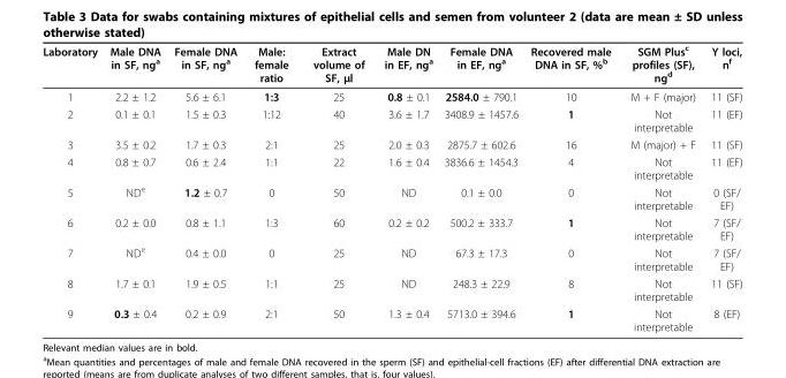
<table><thead><tr><td>Laboratory</td><td>Male DNA in SF, ng<sup>a</sup></td><td>Female DNA in SF, ng<sup>a</sup></td><td>Male: female ratio</td><td>Extract volume of SF, μl</td><td>Male DN in EF, ng<sup>a</sup></td><td>Female DNA in EF, ng<sup>a</sup></td><td>Recovered male DNA in SF, %<sup>b</sup></td><td>SGM Plus<sup>c</sup> profiles (SF), ng<sup>d</sup></td><td>Y loci, n<sup>f</sup></td></tr></thead><tbody><tr><td>1</td><td>2.2 ± 1.2</td><td>5.6 ± 6.1</td><td>1:3</td><td>25</td><td>0.8 ± 0.1</td><td>2584.0 ± 790.1</td><td>10</td><td>M + F (major)</td><td>11 (SF)</td></tr><tr><td>2</td><td>0.1 ± 0.1</td><td>1.5 ± 0.3</td><td>1:12</td><td>40</td><td>3.6 ± 1.7</td><td>3408.9 ± 1457.6</td><td>1</td><td>Not interpretable</td><td>11 (EF)</td></tr><tr><td>3</td><td>3.5 ± 0.2</td><td>1.7 ± 0.3</td><td>2:1</td><td>25</td><td>2.0 ± 0.3</td><td>2875.7 ± 602.6</td><td>16</td><td>M (major) + F</td><td>11 (SF)</td></tr><tr><td>4</td><td>0.8 ± 0.7</td><td>0.6 ± 2.4</td><td>1:1</td><td>22</td><td>1.6 ± 0.4</td><td>3836.6 ± 1454.3</td><td>4</td><td>Not interpretable</td><td>11 (EF)</td></tr><tr><td>5</td><td>ND<sup>e</sup></td><td>1.2 ± 0.7</td><td>0</td><td>50</td><td>ND</td><td>0.1 ± 0.0</td><td>0</td><td>Not interpretable</td><td>0 (SF/ EF)</td></tr><tr><td>6</td><td>0.2 ± 0.0</td><td>0.8 ± 1.1</td><td>1:3</td><td>60</td><td>0.2 ± 0.2</td><td>500.2 ± 333.7</td><td>1</td><td>Not interpretable</td><td>7 (SF/ EF)</td></tr><tr><td>7</td><td>ND<sup>e</sup></td><td>0.4 ± 0.0</td><td>0</td><td>25</td><td>ND</td><td>67.3 ± 17.3</td><td>0</td><td>Not interpretable</td><td>7 (SF/ EF)</td></tr><tr><td>8</td><td>1.7 ± 0.1</td><td>1.9 ± 0.5</td><td>1:1</td><td>25</td><td>ND</td><td>248.3 ± 22.9</td><td>8</td><td>Not interpretable</td><td>11 (SF)</td></tr><tr><td>9</td><td>0.3 ± 0.4</td><td>0.2 ± 0.9</td><td>2:1</td><td>50</td><td>1.3 ± 0.4</td><td>5713.0 ± 394.6</td><td>1</td><td>Not interpretable</td><td>8 (EF)</td></tr></tbody></table>